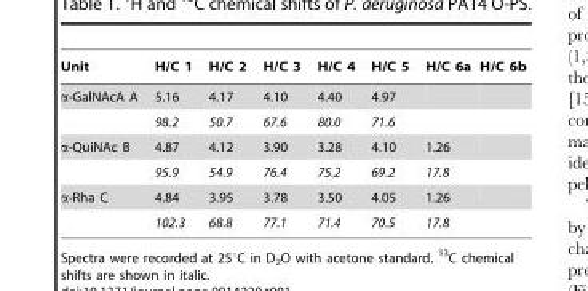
<table><thead><tr><td>Unit</td><td>H/C 1</td><td>H/C 2</td><td>H/C 3</td><td>H/C 4</td><td>H/C 5</td><td>H/C 6a</td><td>H/C 6b</td></tr></thead><tbody><tr><td rowspan="2">α-GalNAcA A</td><td>5.16</td><td>4.17</td><td>4.10</td><td>4.40</td><td>4.97</td><td></td><td></td></tr><tr><td>98.2</td><td>50.7</td><td>67.6</td><td>80.0</td><td>71.6</td><td></td><td></td></tr><tr><td rowspan="2">α-QuiNAc B</td><td>4.87</td><td>4.12</td><td>3.90</td><td>3.28</td><td>4.10</td><td>1.26</td><td></td></tr><tr><td>95.9</td><td>54.9</td><td>76.4</td><td>75.2</td><td>69.2</td><td>17.8</td><td></td></tr><tr><td rowspan="2">α-Rha C</td><td>4.84</td><td>3.95</td><td>3.78</td><td>3.50</td><td>4.05</td><td>1.26</td><td></td></tr><tr><td>102.3</td><td>68.8</td><td>77.1</td><td>71.4</td><td>70.5</td><td>17.8</td><td></td></tr></tbody></table>